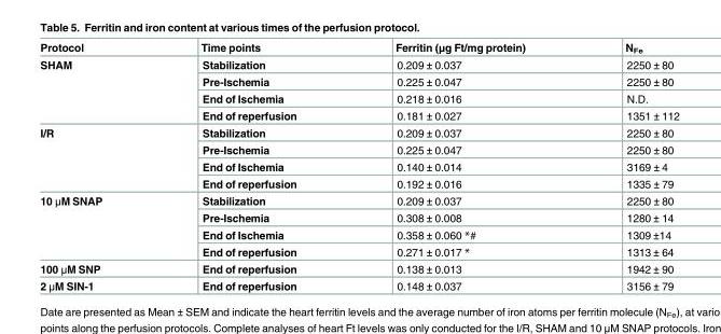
<table><thead><tr><td>Protocol</td><td>Time points</td><td>Ferritin (μg Ft/mg protein)</td><td>N<sub>Fe</sub></td></tr></thead><tbody><tr><td rowspan="4">SHAM</td><td>Stabilization</td><td>0.209 ± 0.037</td><td>2250 ± 80</td></tr><tr><td>Pre-Ischemia</td><td>0.225 ± 0.047</td><td>2250 ± 80</td></tr><tr><td>End of Ischemia</td><td>0.218 ± 0.016</td><td>N.D.</td></tr><tr><td>End of reperfusion</td><td>0.181 ± 0.027</td><td>1351 ± 112</td></tr><tr><td rowspan="4">I/R</td><td>Stabilization</td><td>0.209 ± 0.037</td><td>2250 ± 80</td></tr><tr><td>Pre-Ischemia</td><td>0.225 ± 0.047</td><td>2250 ± 80</td></tr><tr><td>End of Ischemia</td><td>0.140 ± 0.014</td><td>3169 ± 4</td></tr><tr><td>End of reperfusion</td><td>0.192 ± 0.016</td><td>1335 ± 79</td></tr><tr><td rowspan="4">10 μM SNAP</td><td>Stabilization</td><td>0.209 ± 0.037</td><td>2250 ± 80</td></tr><tr><td>Pre-Ischemia</td><td>0.308 ± 0.008</td><td>1280 ± 14</td></tr><tr><td>End of Ischemia</td><td>0.358 ± 0.060 *#</td><td>1309 ±14</td></tr><tr><td>End of reperfusion</td><td>0.271 ± 0.017 *</td><td>1313 ± 64</td></tr><tr><td>100 μM SNP</td><td>End of reperfusion</td><td>0.138 ± 0.013</td><td>1942 ± 90</td></tr><tr><td>2 μM SIN-1</td><td>End of reperfusion</td><td>0.148 ± 0.037</td><td>3156 ± 79</td></tr></tbody></table>